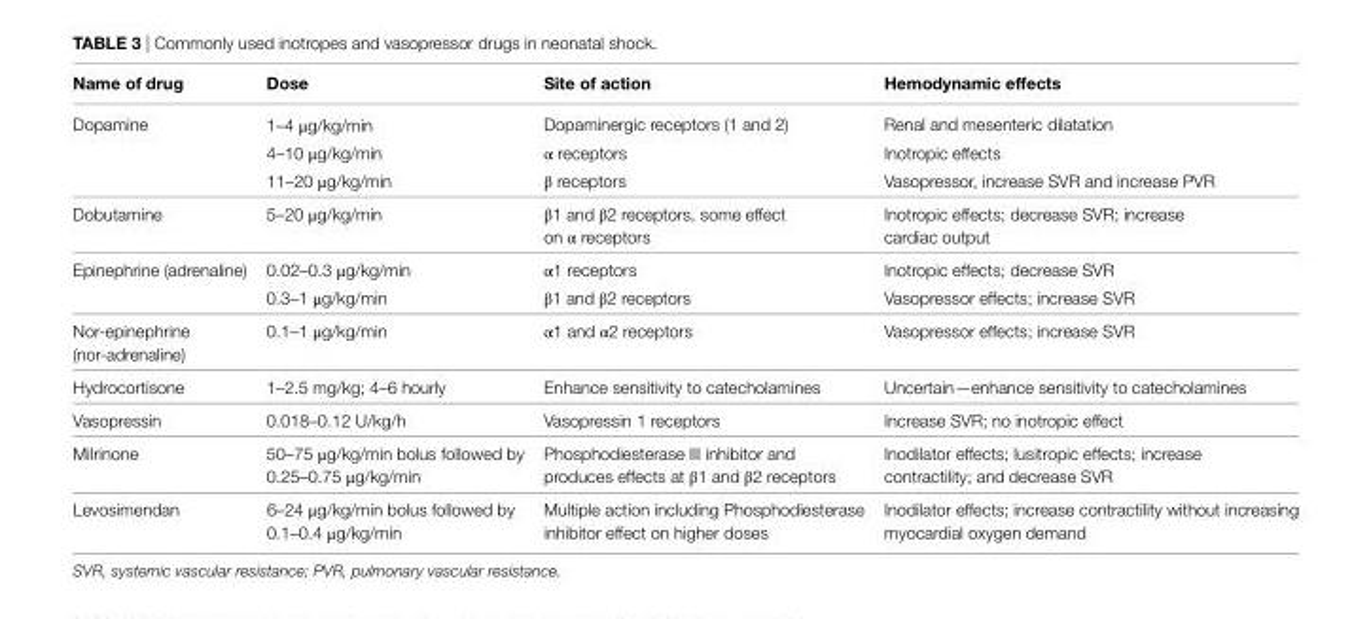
<table><thead><tr><td>Name of drug</td><td>Dose</td><td>Site of action</td><td>Hemodynamic effects</td></tr></thead><tbody><tr><td rowspan="3">Dopamine</td><td>1–4 μg/kg/min</td><td>Dopaminergic receptors (1 and 2)</td><td>Renal and mesenteric dilatation</td></tr><tr><td>4–10 μg/kg/min</td><td>α receptors</td><td>Inotropic effects</td></tr><tr><td>11–20 μg/kg/min</td><td>β receptors</td><td>Vasopressor, increase SVR and increase PVR</td></tr><tr><td>Dobutamine</td><td>5–20 μg/kg/min</td><td>β1 and β2 receptors, some effect on α receptors</td><td>Inotropic effects; decrease SVR; increase cardiac output</td></tr><tr><td rowspan="2">Epinephrine (adrenaline)</td><td>0.02–0.3 μg/kg/min</td><td>α1 receptors</td><td>Inotropic effects; decrease SVR</td></tr><tr><td>0.3–1 μg/kg/min</td><td>β1 and β2 receptors</td><td>Vasopressor effects; increase SVR</td></tr><tr><td>Nor-epinephrine (nor-adrenaline)</td><td>0.1–1 μg/kg/min</td><td>α1 and α2 receptors</td><td>Vasopressor effects; increase SVR</td></tr><tr><td>Hydrocortisone</td><td>1–2.5 mg/kg; 4–6 hourly</td><td>Enhance sensitivity to catecholamines</td><td>Uncertain—enhance sensitivity to catecholamines</td></tr><tr><td>Vasopressin</td><td>0.018–0.12 U/kg/h</td><td>Vasopressin 1 receptors</td><td>Increase SVR; no inotropic effect</td></tr><tr><td>Milrinone</td><td>50–75 μg/kg/min bolus followed by 0.25–0.75 μg/kg/min</td><td>Phosphodiesterase III inhibitor and produces effects at β1 and β2 receptors</td><td>Inodilator effects; lusitropic effects; increase contractility; and decrease SVR</td></tr><tr><td>Levosimendan</td><td>6–24 μg/kg/min bolus followed by 0.1–0.4 μg/kg/min</td><td>Multiple action including Phosphodiesterase inhibitor effect on higher doses</td><td>Inodilator effects; increase contractility without increasing myocardial oxygen demand</td></tr></tbody></table>